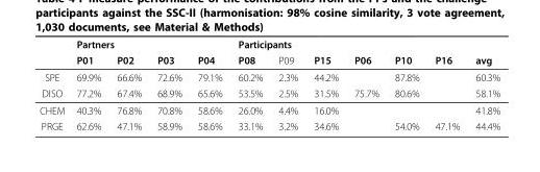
<table><thead><tr><td rowspan="2"></td><td colspan="4">Partners</td><td colspan="3">Participants</td><td rowspan="2">P06</td><td rowspan="2">P10</td><td rowspan="2">P16</td><td rowspan="2">avg</td></tr><tr><td>P01</td><td>P02</td><td>P03</td><td>P04</td><td>P08</td><td>P09</td><td>P15</td></tr></thead><tbody><tr><td>SPE</td><td>69.9%</td><td>66.6%</td><td>72.6%</td><td>79.1%</td><td>60.2%</td><td>2.3%</td><td>44.2%</td><td></td><td>87.8%</td><td></td><td>60.3%</td></tr><tr><td>DISO</td><td>77.2%</td><td>67.4%</td><td>68.9%</td><td>65.6%</td><td>53.5%</td><td>2.5%</td><td>31.5%</td><td>75.7%</td><td>80.6%</td><td></td><td>58.1%</td></tr><tr><td>CHEM</td><td>40.3%</td><td>76.8%</td><td>70.8%</td><td>58.6%</td><td>26.0%</td><td>4.4%</td><td>16.0%</td><td></td><td></td><td></td><td>41.8%</td></tr><tr><td>PRGE</td><td>62.6%</td><td>47.1%</td><td>58.9%</td><td>58.6%</td><td>33.1%</td><td>3.2%</td><td>34.6%</td><td></td><td>54.0%</td><td>47.1%</td><td>44.4%</td></tr></tbody></table>